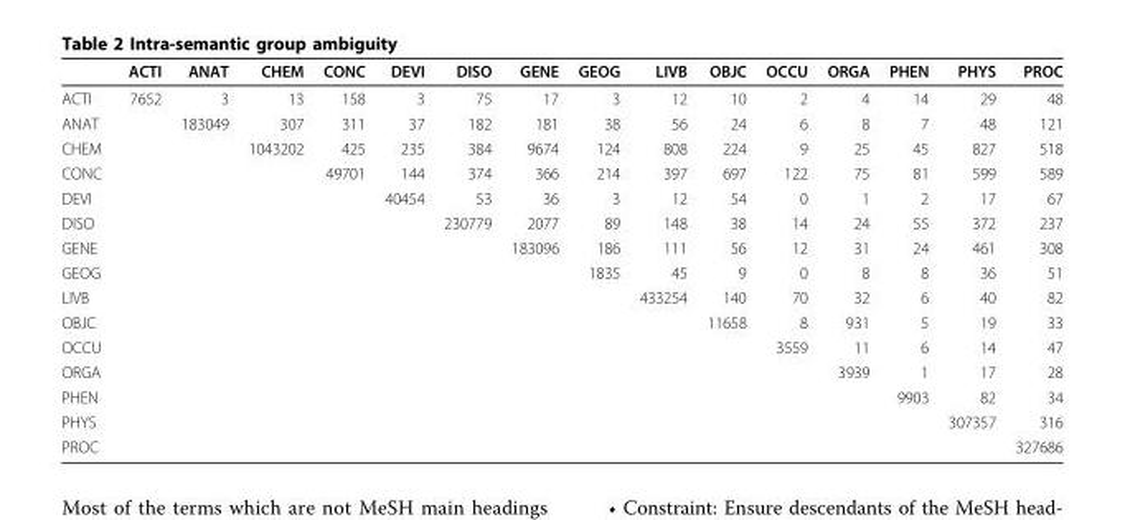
<table><thead><tr><td></td><td>ACTI</td><td>ANAT</td><td>CHEM</td><td>CONC</td><td>DEVI</td><td>DISO</td><td>GENE</td><td>GEOG</td><td>LIVB</td><td>OBJC</td><td>OCCU</td><td>ORGA</td><td>PHEN</td><td>PHYS</td><td>PROC</td></tr></thead><tbody><tr><td>ACTI</td><td>7652</td><td>3</td><td>13</td><td>158</td><td>3</td><td>75</td><td>17</td><td>3</td><td>12</td><td>10</td><td>2</td><td>4</td><td>14</td><td>29</td><td>48</td></tr><tr><td>ANAT</td><td></td><td>183049</td><td>307</td><td>311</td><td>37</td><td>182</td><td>181</td><td>38</td><td>56</td><td>24</td><td>6</td><td>8</td><td>7</td><td>48</td><td>121</td></tr><tr><td>CHEM</td><td></td><td></td><td>1043202</td><td>425</td><td>235</td><td>384</td><td>9674</td><td>124</td><td>808</td><td>224</td><td>9</td><td>25</td><td>45</td><td>827</td><td>518</td></tr><tr><td>CONC</td><td></td><td></td><td></td><td>49701</td><td>144</td><td>374</td><td>366</td><td>214</td><td>397</td><td>697</td><td>122</td><td>75</td><td>81</td><td>599</td><td>589</td></tr><tr><td>DEVI</td><td></td><td></td><td></td><td></td><td>40454</td><td>53</td><td>36</td><td>3</td><td>12</td><td>54</td><td>0</td><td>1</td><td>2</td><td>17</td><td>67</td></tr><tr><td>DISO</td><td></td><td></td><td></td><td></td><td></td><td>230779</td><td>2077</td><td>89</td><td>148</td><td>38</td><td>14</td><td>24</td><td>55</td><td>372</td><td>237</td></tr><tr><td>GENE</td><td></td><td></td><td></td><td></td><td></td><td></td><td>183096</td><td>186</td><td>111</td><td>56</td><td>12</td><td>31</td><td>24</td><td>461</td><td>308</td></tr><tr><td>GEOG</td><td></td><td></td><td></td><td></td><td></td><td></td><td></td><td>1835</td><td>45</td><td>9</td><td>0</td><td>8</td><td>8</td><td>36</td><td>51</td></tr><tr><td>LIVB</td><td></td><td></td><td></td><td></td><td></td><td></td><td></td><td></td><td>433254</td><td>140</td><td>70</td><td>32</td><td>6</td><td>40</td><td>82</td></tr><tr><td>OBJC</td><td></td><td></td><td></td><td></td><td></td><td></td><td></td><td></td><td></td><td>11658</td><td>8</td><td>931</td><td>5</td><td>19</td><td>33</td></tr><tr><td>OCCU</td><td></td><td></td><td></td><td></td><td></td><td></td><td></td><td></td><td></td><td></td><td>3559</td><td>11</td><td>6</td><td>14</td><td>47</td></tr><tr><td>ORGA</td><td></td><td></td><td></td><td></td><td></td><td></td><td></td><td></td><td></td><td></td><td></td><td>3939</td><td>1</td><td>17</td><td>28</td></tr><tr><td>PHEN</td><td></td><td></td><td></td><td></td><td></td><td></td><td></td><td></td><td></td><td></td><td></td><td></td><td>9903</td><td>82</td><td>34</td></tr><tr><td>PHYS</td><td></td><td></td><td></td><td></td><td></td><td></td><td></td><td></td><td></td><td></td><td></td><td></td><td></td><td>307357</td><td>316</td></tr><tr><td>PROC</td><td></td><td></td><td></td><td></td><td></td><td></td><td></td><td></td><td></td><td></td><td></td><td></td><td></td><td></td><td>327686</td></tr></tbody></table>